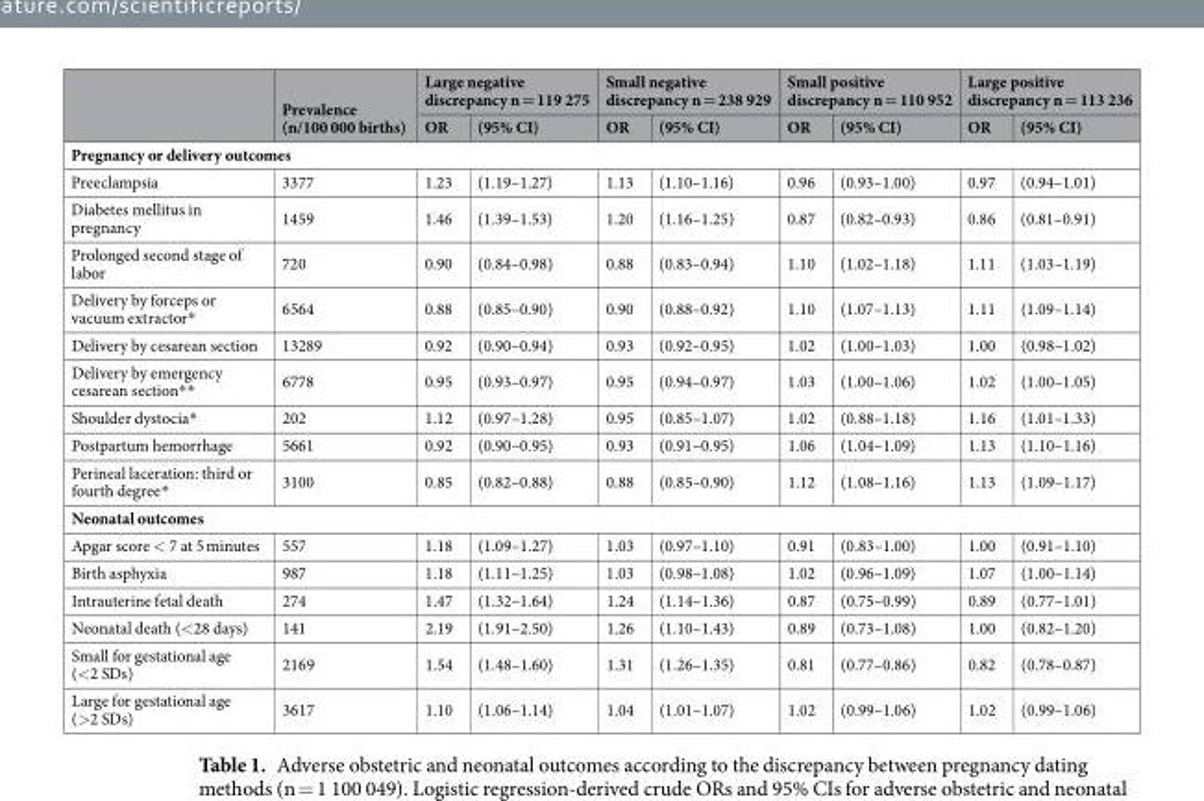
<table><thead><tr><td rowspan="2"></td><td rowspan="2">Prevalence (n/100 000 births)</td><td colspan="2">Large negative discrepancy n = 119 275</td><td colspan="2">Small negative discrepancy n = 238 929</td><td colspan="2">Small positive discrepancy n = 110 952</td><td colspan="2">Large positive discrepancy n = 113 236</td></tr><tr><td>OR</td><td>(95% CI)</td><td>OR</td><td>(95% CI)</td><td>OR</td><td>(95% CI)</td><td>OR</td><td>(95% CI)</td></tr></thead><tbody><tr><td colspan="10">Pregnancy or delivery outcomes</td></tr><tr><td>Preeclampsia</td><td>3377</td><td>1.23</td><td>(1.19–1.27)</td><td>1.13</td><td>(1.10–1.16)</td><td>0.96</td><td>(0.93–1.00)</td><td>0.97</td><td>(0.94–1.01)</td></tr><tr><td>Diabetes mellitus in pregnancy</td><td>1459</td><td>1.46</td><td>(1.39–1.53)</td><td>1.20</td><td>(1.16–1.25)</td><td>0.87</td><td>(0.82–0.93)</td><td>0.86</td><td>(0.81–0.91)</td></tr><tr><td>Prolonged second stage of labor</td><td>720</td><td>0.90</td><td>(0.84–0.98)</td><td>0.88</td><td>(0.83–0.94)</td><td>1.10</td><td>(1.02–1.18)</td><td>1.11</td><td>(1.03–1.19)</td></tr><tr><td>Delivery by forceps or vacuum extractor*</td><td>6564</td><td>0.88</td><td>(0.85–0.90)</td><td>0.90</td><td>(0.88–0.92)</td><td>1.10</td><td>(1.07–1.13)</td><td>1.11</td><td>(1.09–1.14)</td></tr><tr><td>Delivery by cesarean section</td><td>13289</td><td>0.92</td><td>(0.90–0.94)</td><td>0.93</td><td>(0.92–0.95)</td><td>1.02</td><td>(1.00–1.03)</td><td>1.00</td><td>(0.98–1.02)</td></tr><tr><td>Delivery by emergency cesarean section**</td><td>6778</td><td>0.95</td><td>(0.93–0.97)</td><td>0.95</td><td>(0.94–0.97)</td><td>1.03</td><td>(1.00–1.06)</td><td>1.02</td><td>(1.00–1.05)</td></tr><tr><td>Shoulder dystocia*</td><td>202</td><td>1.12</td><td>(0.97–1.28)</td><td>0.95</td><td>(0.85–1.07)</td><td>1.02</td><td>(0.88–1.18)</td><td>1.16</td><td>(1.01–1.33)</td></tr><tr><td>Postpartum hemorrhage</td><td>5661</td><td>0.92</td><td>(0.90–0.95)</td><td>0.93</td><td>(0.91–0.95)</td><td>1.06</td><td>(1.04–1.09)</td><td>1.13</td><td>(1.10–1.16)</td></tr><tr><td>Perineal laceration: third or fourth degree*</td><td>3100</td><td>0.85</td><td>(0.82–0.88)</td><td>0.88</td><td>(0.85–0.90)</td><td>1.12</td><td>(1.08–1.16)</td><td>1.13</td><td>(1.09–1.17)</td></tr><tr><td colspan="10">Neonatal outcomes</td></tr><tr><td>Apgar score &lt; 7 at 5 minutes</td><td>557</td><td>1.18</td><td>(1.09–1.27)</td><td>1.03</td><td>(0.97–1.10)</td><td>0.91</td><td>(0.83–1.00)</td><td>1.00</td><td>(0.91–1.10)</td></tr><tr><td>Birth asphyxia</td><td>987</td><td>1.18</td><td>(1.11–1.25)</td><td>1.03</td><td>(0.98–1.08)</td><td>1.02</td><td>(0.96–1.09)</td><td>1.07</td><td>(1.00–1.14)</td></tr><tr><td>Intrauterine fetal death</td><td>274</td><td>1.47</td><td>(1.32–1.64)</td><td>1.24</td><td>(1.14–1.36)</td><td>0.87</td><td>(0.75–0.99)</td><td>0.89</td><td>(0.77–1.01)</td></tr><tr><td>Neonatal death (&lt;28 days)</td><td>141</td><td>2.19</td><td>(1.91–2.50)</td><td>1.26</td><td>(1.10–1.43)</td><td>0.89</td><td>(0.73–1.08)</td><td>1.00</td><td>(0.82–1.20)</td></tr><tr><td>Small for gestational age (&lt;2 SDs)</td><td>2169</td><td>1.54</td><td>(1.48–1.60)</td><td>1.31</td><td>(1.26–1.35)</td><td>0.81</td><td>(0.77–0.86)</td><td>0.82</td><td>(0.78–0.87)</td></tr><tr><td>Large for gestational age (&gt;2 SDs)</td><td>3617</td><td>1.10</td><td>(1.06–1.14)</td><td>1.04</td><td>(1.01–1.07)</td><td>1.02</td><td>(0.99–1.06)</td><td>1.02</td><td>(0.99–1.06)</td></tr></tbody></table>